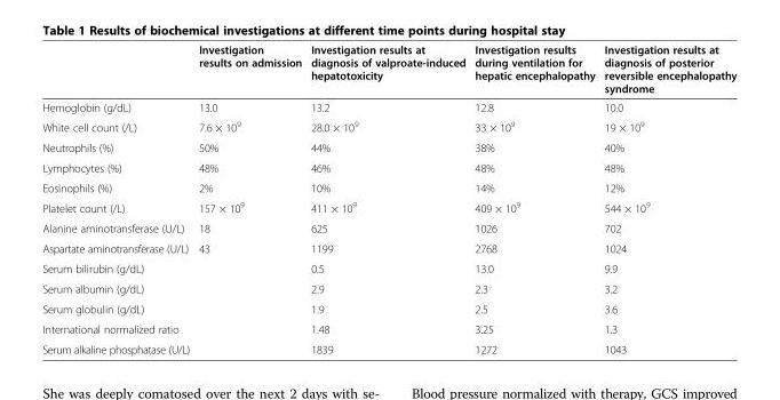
<table><thead><tr><td></td><td>Investigation results on admission</td><td>Investigation results at diagnosis of valproate-induced hepatotoxicity</td><td>Investigation results during ventilation for hepatic encephalopathy</td><td>Investigation results at diagnosis of posterior reversible encephalopathy syndrome</td></tr></thead><tbody><tr><td>Hemoglobin (g/dL)</td><td>13.0</td><td>13.2</td><td>12.8</td><td>10.0</td></tr><tr><td>White cell count (/L)</td><td>7.6 × 10<sup>9</sup></td><td>28.0 × 10<sup>9</sup></td><td>33 × 10<sup>9</sup></td><td>19 × 10<sup>9</sup></td></tr><tr><td>Neutrophils (%)</td><td>50%</td><td>44%</td><td>38%</td><td>40%</td></tr><tr><td>Lymphocytes (%)</td><td>48%</td><td>46%</td><td>48%</td><td>48%</td></tr><tr><td>Eosinophils (%)</td><td>2%</td><td>10%</td><td>14%</td><td>12%</td></tr><tr><td>Platelet count (/L)</td><td>157 × 10<sup>9</sup></td><td>411 × 10<sup>9</sup></td><td>409 × 10<sup>9</sup></td><td>544 × 10<sup>9</sup></td></tr><tr><td>Alanine aminotransferase (U/L)</td><td>18</td><td>625</td><td>1026</td><td>702</td></tr><tr><td>Aspartate aminotransferase (U/L)</td><td>43</td><td>1199</td><td>2768</td><td>1024</td></tr><tr><td>Serum bilirubin (g/dL)</td><td></td><td>0.5</td><td>13.0</td><td>9.9</td></tr><tr><td>Serum albumin (g/dL)</td><td></td><td>2.9</td><td>2.3</td><td>3.2</td></tr><tr><td>Serum globulin (g/dL)</td><td></td><td>1.9</td><td>2.5</td><td>3.6</td></tr><tr><td>International normalized ratio</td><td></td><td>1.48</td><td>3.25</td><td>1.3</td></tr><tr><td>Serum alkaline phosphatase (U/L)</td><td></td><td>1839</td><td>1272</td><td>1043</td></tr></tbody></table>